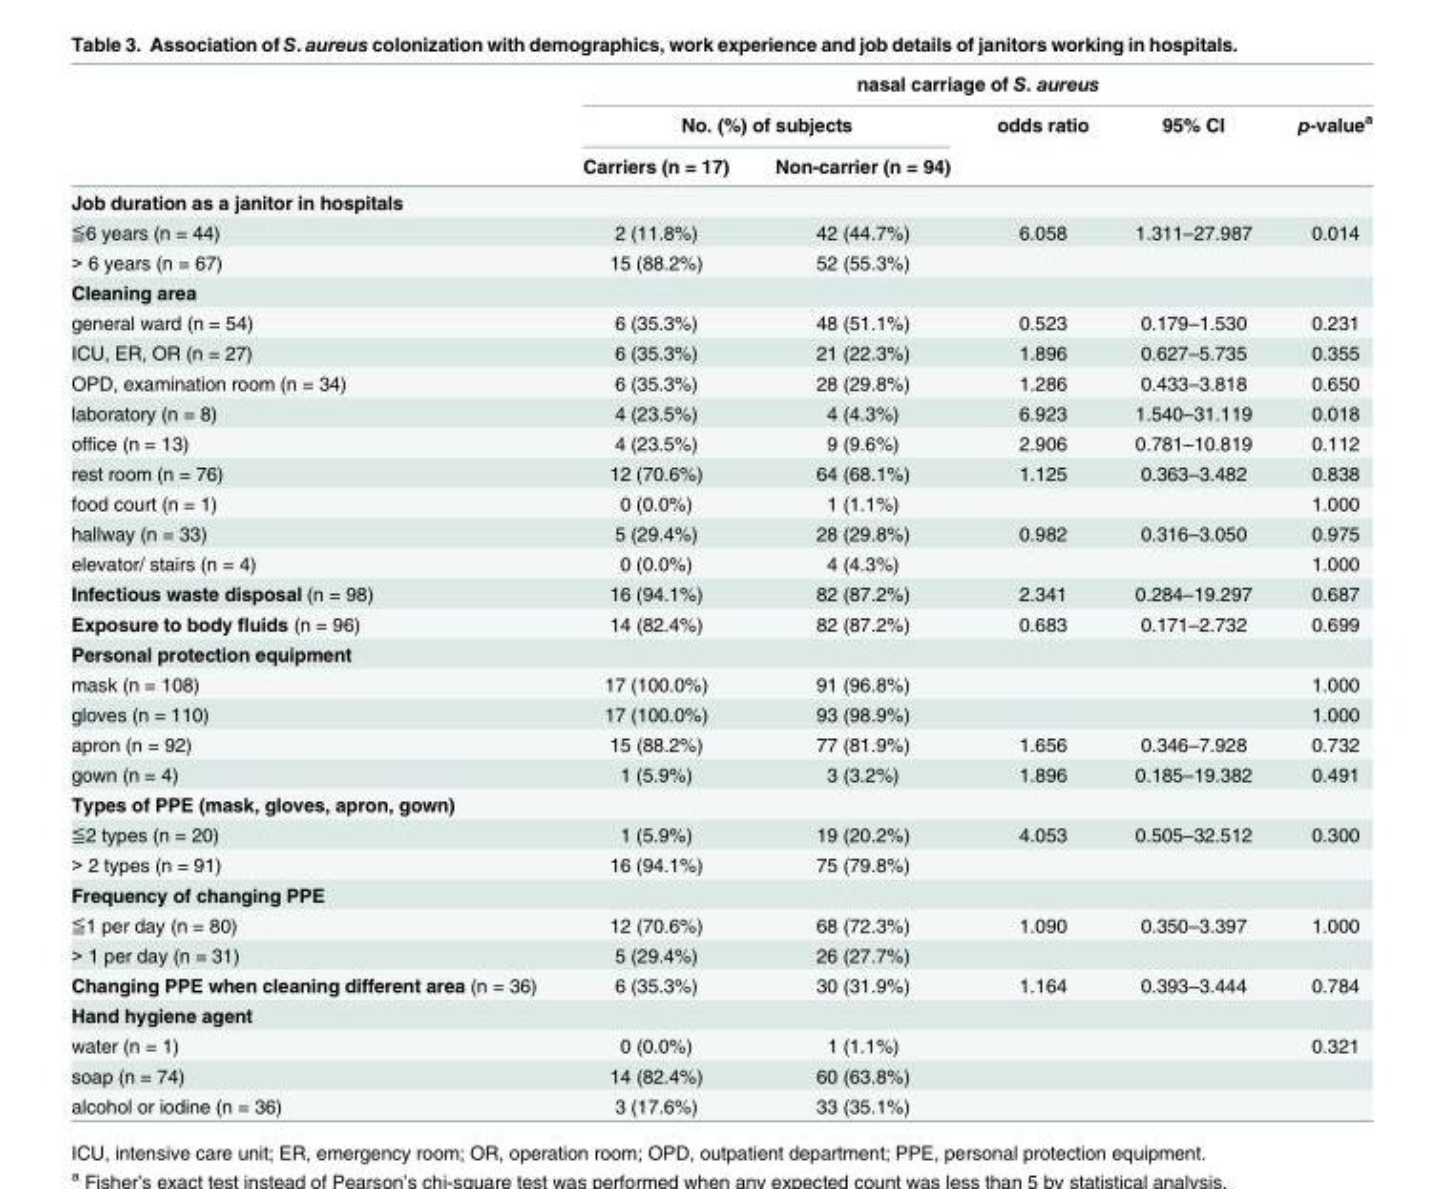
<table><thead><tr><td rowspan="3"></td><td colspan="5">nasal carriage of S. aureus</td></tr><tr><td colspan="2">No. (%) of subjects</td><td rowspan="2">odds ratio</td><td rowspan="2">95% CI</td><td rowspan="2">p-value<sup>a</sup></td></tr><tr><td>Carriers (n = 17)</td><td>Non-carrier (n = 94)</td></tr></thead><tbody><tr><td colspan="6">Job duration as a janitor in hospitals</td></tr><tr><td>≦6 years (n = 44)</td><td>2 (11.8%)</td><td>42 (44.7%)</td><td>6.058</td><td>1.311–27.987</td><td>0.014</td></tr><tr><td>&gt; 6 years (n = 67)</td><td>15 (88.2%)</td><td>52 (55.3%)</td><td></td><td></td><td></td></tr><tr><td colspan="6">Cleaning area</td></tr><tr><td>general ward (n = 54)</td><td>6 (35.3%)</td><td>48 (51.1%)</td><td>0.523</td><td>0.179–1.530</td><td>0.231</td></tr><tr><td>ICU, ER, OR (n = 27)</td><td>6 (35.3%)</td><td>21 (22.3%)</td><td>1.896</td><td>0.627–5.735</td><td>0.355</td></tr><tr><td>OPD, examination room (n = 34)</td><td>6 (35.3%)</td><td>28 (29.8%)</td><td>1.286</td><td>0.433–3.818</td><td>0.650</td></tr><tr><td>laboratory (n = 8)</td><td>4 (23.5%)</td><td>4 (4.3%)</td><td>6.923</td><td>1.540–31.119</td><td>0.018</td></tr><tr><td>office (n = 13)</td><td>4 (23.5%)</td><td>9 (9.6%)</td><td>2.906</td><td>0.781–10.819</td><td>0.112</td></tr><tr><td>rest room (n = 76)</td><td>12 (70.6%)</td><td>64 (68.1%)</td><td>1.125</td><td>0.363–3.482</td><td>0.838</td></tr><tr><td>food court (n = 1)</td><td>0 (0.0%)</td><td>1 (1.1%)</td><td></td><td></td><td>1.000</td></tr><tr><td>hallway (n = 33)</td><td>5 (29.4%)</td><td>28 (29.8%)</td><td>0.982</td><td>0.316–3.050</td><td>0.975</td></tr><tr><td>elevator/ stairs (n = 4)</td><td>0 (0.0%)</td><td>4 (4.3%)</td><td></td><td></td><td>1.000</td></tr><tr><td>Infectious waste disposal (n = 98)</td><td>16 (94.1%)</td><td>82 (87.2%)</td><td>2.341</td><td>0.284–19.297</td><td>0.687</td></tr><tr><td>Exposure to body fluids (n = 96)</td><td>14 (82.4%)</td><td>82 (87.2%)</td><td>0.683</td><td>0.171–2.732</td><td>0.699</td></tr><tr><td colspan="6">Personal protection equipment</td></tr><tr><td>mask (n = 108)</td><td>17 (100.0%)</td><td>91 (96.8%)</td><td></td><td></td><td>1.000</td></tr><tr><td>gloves (n = 110)</td><td>17 (100.0%)</td><td>93 (98.9%)</td><td></td><td></td><td>1.000</td></tr><tr><td>apron (n = 92)</td><td>15 (88.2%)</td><td>77 (81.9%)</td><td>1.656</td><td>0.346–7.928</td><td>0.732</td></tr><tr><td>gown (n = 4)</td><td>1 (5.9%)</td><td>3 (3.2%)</td><td>1.896</td><td>0.185–19.382</td><td>0.491</td></tr><tr><td colspan="6">Types of PPE (mask, gloves, apron, gown)</td></tr><tr><td>≦2 types (n = 20)</td><td>1 (5.9%)</td><td>19 (20.2%)</td><td>4.053</td><td>0.505–32.512</td><td>0.300</td></tr><tr><td>&gt; 2 types (n = 91)</td><td>16 (94.1%)</td><td>75 (79.8%)</td><td></td><td></td><td></td></tr><tr><td colspan="6">Frequency of changing PPE</td></tr><tr><td>≦1 per day (n = 80)</td><td>12 (70.6%)</td><td>68 (72.3%)</td><td>1.090</td><td>0.350–3.397</td><td>1.000</td></tr><tr><td>&gt; 1 per day (n = 31)</td><td>5 (29.4%)</td><td>26 (27.7%)</td><td></td><td></td><td></td></tr><tr><td>Changing PPE when cleaning different area (n = 36)</td><td>6 (35.3%)</td><td>30 (31.9%)</td><td>1.164</td><td>0.393–3.444</td><td>0.784</td></tr><tr><td colspan="6">Hand hygiene agent</td></tr><tr><td>water (n = 1)</td><td>0 (0.0%)</td><td>1 (1.1%)</td><td></td><td></td><td>0.321</td></tr><tr><td>soap (n = 74)</td><td>14 (82.4%)</td><td>60 (63.8%)</td><td></td><td></td><td></td></tr><tr><td>alcohol or iodine (n = 36)</td><td>3 (17.6%)</td><td>33 (35.1%)</td><td></td><td></td><td></td></tr></tbody></table>